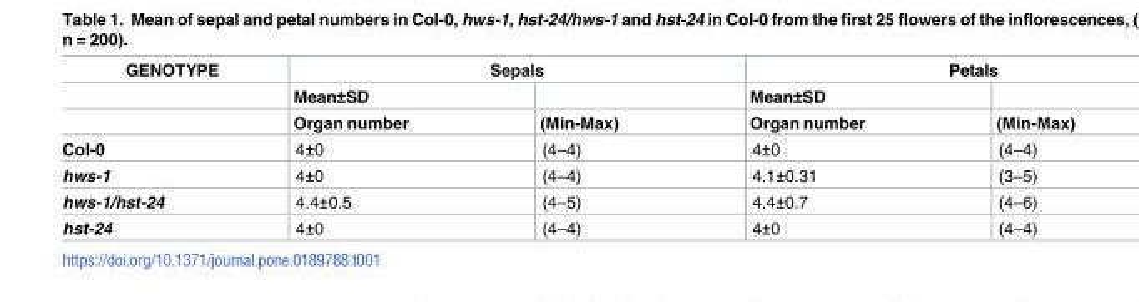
<table><thead><tr><td rowspan="3">GENOTYPE</td><td colspan="2">Sepals</td><td colspan="2">Petals</td></tr><tr><td rowspan="2">Mean±SD Organ number</td><td rowspan="2">(Min-Max)</td><td rowspan="2">Mean±SD Organ number</td><td rowspan="2">(Min-Max)</td></tr><tr></tr></thead><tbody><tr><td>Col-0</td><td>4±0</td><td>(4–4)</td><td>4±0</td><td>(4–4)</td></tr><tr><td>hws-1</td><td>4±0</td><td>(4–4)</td><td>4.1±0.31</td><td>(3–5)</td></tr><tr><td>hws-1/hst-24</td><td>4.4±0.5</td><td>(4–5)</td><td>4.4±0.7</td><td>(4–6)</td></tr><tr><td>hst-24</td><td>4±0</td><td>(4–4)</td><td>4±0</td><td>(4–4)</td></tr></tbody></table>